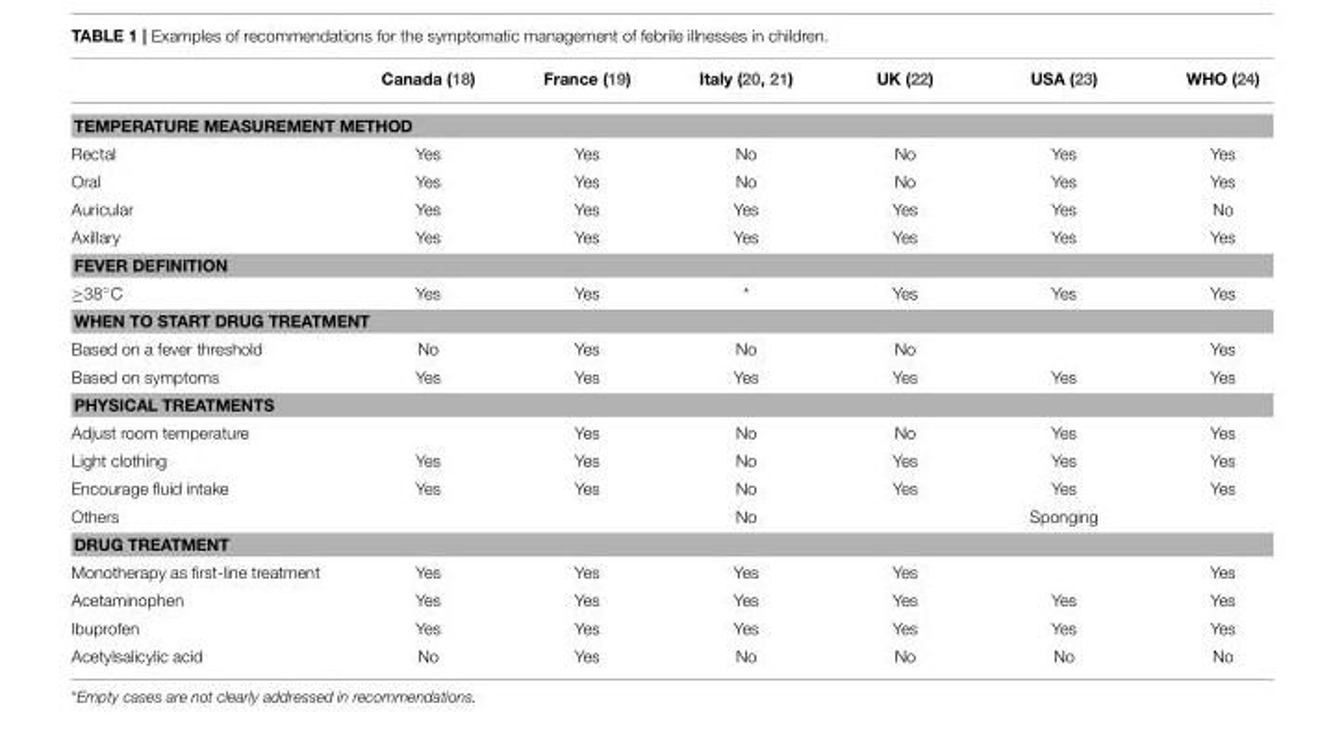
<table><thead><tr><td></td><td>Canada (18)</td><td>France (19)</td><td>Italy (20, 21)</td><td>UK (22)</td><td>USA (23)</td><td>WHO (24)</td></tr></thead><tbody><tr><td colspan="7">TEMPERATURE MEASUREMENT METHOD</td></tr><tr><td>Rectal</td><td>Yes</td><td>Yes</td><td>No</td><td>No</td><td>Yes</td><td>Yes</td></tr><tr><td>Oral</td><td>Yes</td><td>Yes</td><td>No</td><td>No</td><td>Yes</td><td>Yes</td></tr><tr><td>Auricular</td><td>Yes</td><td>Yes</td><td>Yes</td><td>Yes</td><td>Yes</td><td>No</td></tr><tr><td>Axillary</td><td>Yes</td><td>Yes</td><td>Yes</td><td>Yes</td><td>Yes</td><td>Yes</td></tr><tr><td colspan="7">FEVER DEFINITION</td></tr><tr><td>≥38◦C</td><td>Yes</td><td>Yes</td><td>*</td><td>Yes</td><td>Yes</td><td>Yes</td></tr><tr><td colspan="7">WHEN TO START DRUG TREATMENT</td></tr><tr><td>Based on a fever threshold</td><td>No</td><td>Yes</td><td>No</td><td>No</td><td></td><td>Yes</td></tr><tr><td>Based on symptoms</td><td>Yes</td><td>Yes</td><td>Yes</td><td>Yes</td><td>Yes</td><td>Yes</td></tr><tr><td colspan="7">PHYSICAL TREATMENTS</td></tr><tr><td>Adjust room temperature</td><td></td><td>Yes</td><td>No</td><td>No</td><td>Yes</td><td>Yes</td></tr><tr><td>Light clothing</td><td>Yes</td><td>Yes</td><td>No</td><td>Yes</td><td>Yes</td><td>Yes</td></tr><tr><td>Encourage fluid intake</td><td>Yes</td><td>Yes</td><td>No</td><td>Yes</td><td>Yes</td><td>Yes</td></tr><tr><td>Others</td><td></td><td></td><td>No</td><td></td><td>Sponging</td><td></td></tr><tr><td colspan="7">DRUG TREATMENT</td></tr><tr><td>Monotherapy as first-line treatment</td><td>Yes</td><td>Yes</td><td>Yes</td><td>Yes</td><td></td><td>Yes</td></tr><tr><td>Acetaminophen</td><td>Yes</td><td>Yes</td><td>Yes</td><td>Yes</td><td>Yes</td><td>Yes</td></tr><tr><td>Ibuprofen</td><td>Yes</td><td>Yes</td><td>Yes</td><td>Yes</td><td>Yes</td><td>Yes</td></tr><tr><td>Acetylsalicylic acid</td><td>No</td><td>Yes</td><td>No</td><td>No</td><td>No</td><td>No</td></tr></tbody></table>